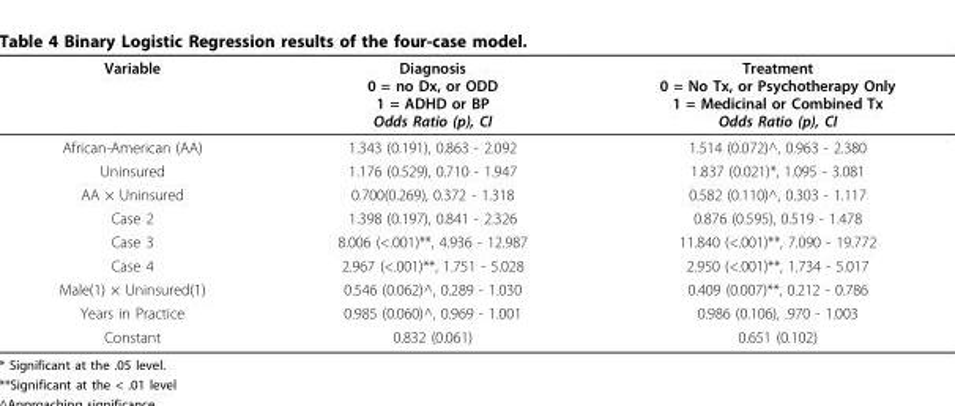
<table><thead><tr><td>Variable</td><td>Diagnosis 0 = no Dx, or ODD 1 = ADHD or BP Odds Ratio (p), CI</td><td>Treatment 0 = No Tx, or Psychotherapy Only 1 = Medicinal or Combined Tx Odds Ratio (p), CI</td></tr></thead><tbody><tr><td>African-American (AA)</td><td>1.343 (0.191), 0.863 - 2.092</td><td>1.514 (0.072)^, 0.963 - 2.380</td></tr><tr><td>Uninsured</td><td>1.176 (0.529), 0.710 - 1.947</td><td>1.837 (0.021)*, 1.095 - 3.081</td></tr><tr><td>AA × Uninsured</td><td>0.700(0.269), 0.372 - 1.318</td><td>0.582 (0.110)^, 0.303 - 1.117</td></tr><tr><td>Case 2</td><td>1.398 (0.197), 0.841 - 2.326</td><td>0.876 (0.595), 0.519 - 1.478</td></tr><tr><td>Case 3</td><td>8.006 (&lt;.001)**, 4.936 - 12.987</td><td>11.840 (&lt;.001)**, 7.090 - 19.772</td></tr><tr><td>Case 4</td><td>2.967 (&lt;.001)**, 1.751 - 5.028</td><td>2.950 (&lt;.001)**, 1.734 - 5.017</td></tr><tr><td>Male(1) × Uninsured(1)</td><td>0.546 (0.062)^, 0.289 - 1.030</td><td>0.409 (0.007)**, 0.212 - 0.786</td></tr><tr><td>Years in Practice</td><td>0.985 (0.060)^, 0.969 - 1.001</td><td>0.986 (0.106), .970 - 1.003</td></tr><tr><td>Constant</td><td>0.832 (0.061)</td><td>0.651 (0.102)</td></tr></tbody></table>